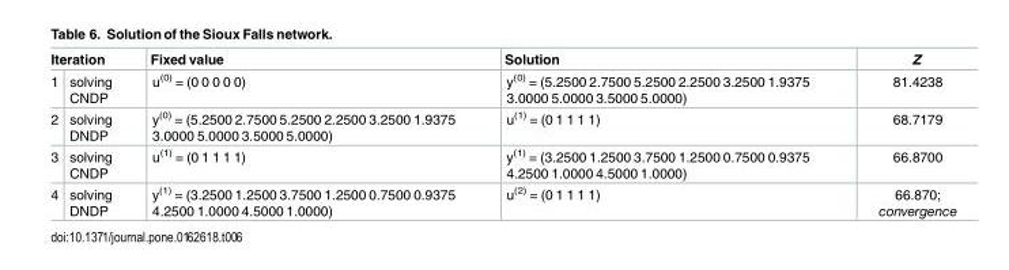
<table><thead><tr><td colspan="2">Iteration</td><td rowspan="2">Fixed value u<sup>(0)</sup> = (0 0 0 0 0)</td><td rowspan="2">Solution y<sup>(0)</sup> = (5.2500 2.7500 5.2500 2.2500 3.2500 1.9375 3.0000 5.0000 3.5000 5.0000)</td><td rowspan="2">Z 81.4238</td></tr><tr><td>1</td><td>solving CNDP</td></tr></thead><tbody><tr><td>2</td><td>solving DNDP</td><td>y<sup>(0)</sup> = (5.2500 2.7500 5.2500 2.2500 3.2500 1.9375 3.0000 5.0000 3.5000 5.0000)</td><td>u<sup>(1)</sup> = (0 1 1 1 1)</td><td>68.7179</td></tr><tr><td>3</td><td>solving CNDP</td><td>u<sup>(1)</sup> = (0 1 1 1 1)</td><td>y<sup>(1)</sup> = (3.2500 1.2500 3.7500 1.2500 0.7500 0.9375 4.2500 1.0000 4.5000 1.0000)</td><td>66.8700</td></tr><tr><td>4</td><td>solving DNDP</td><td>y<sup>(1)</sup> = (3.2500 1.2500 3.7500 1.2500 0.7500 0.9375 4.2500 1.0000 4.5000 1.0000)</td><td>u<sup>(2)</sup> = (0 1 1 1 1)</td><td>66.870; convergence</td></tr></tbody></table>